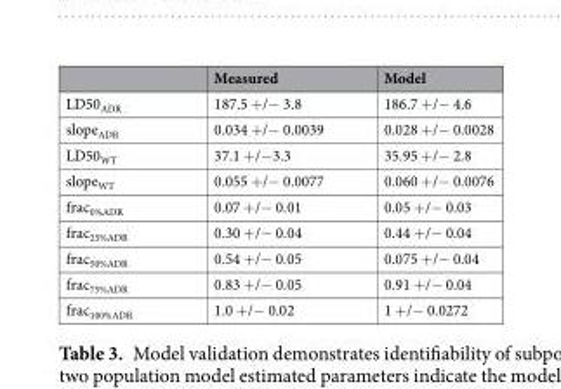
<table><thead><tr><td></td><td>Measured</td><td>Model</td></tr></thead><tbody><tr><td>LD50<sub>ADR</sub></td><td>187.5 +/− 3.8</td><td>186.7 +/− 4.6</td></tr><tr><td>slope<sub>ADR</sub></td><td>0.034 +/− 0.0039</td><td>0.028 +/− 0.0028</td></tr><tr><td>LD50<sub>WT</sub></td><td>37.1 +/−3.3</td><td>35.95 +/− 2.8</td></tr><tr><td>slope<sub>WT</sub></td><td>0.055 +/− 0.0077</td><td>0.060 +/− 0.0076</td></tr><tr><td>frac<sub>0%ADR</sub></td><td>0.07 +/− 0.01</td><td>0.05 +/− 0.03</td></tr><tr><td>frac<sub>25%ADR</sub></td><td>0.30 +/− 0.04</td><td>0.44 +/− 0.04</td></tr><tr><td>frac<sub>50%ADR</sub></td><td>0.54 +/− 0.05</td><td>0.075 +/− 0.04</td></tr><tr><td>frac<sub>75%ADR</sub></td><td>0.83 +/− 0.05</td><td>0.91 +/− 0.04</td></tr><tr><td>frac<sub>100%ADR</sub></td><td>1.0 +/− 0.02</td><td>1 +/− 0.0272</td></tr></tbody></table>